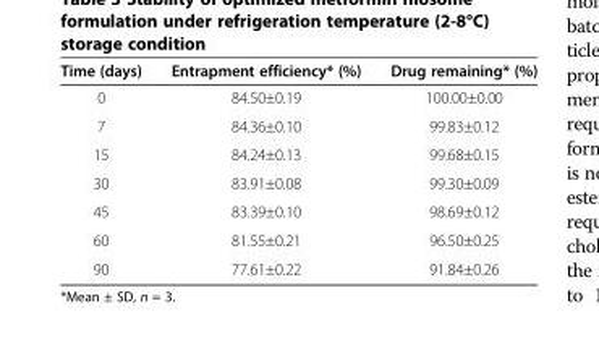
<table><thead><tr><td>Time (days)</td><td>Entrapment efficiency* (%)</td><td>Drug remaining* (%)</td></tr></thead><tbody><tr><td>0</td><td>84.50±0.19</td><td>100.00±0.00</td></tr><tr><td>7</td><td>84.36±0.10</td><td>99.83±0.12</td></tr><tr><td>15</td><td>84.24±0.13</td><td>99.68±0.15</td></tr><tr><td>30</td><td>83.91±0.08</td><td>99.30±0.09</td></tr><tr><td>45</td><td>83.39±0.10</td><td>98.69±0.12</td></tr><tr><td>60</td><td>81.55±0.21</td><td>96.50±0.25</td></tr><tr><td>90</td><td>77.61±0.22</td><td>91.84±0.26</td></tr></tbody></table>